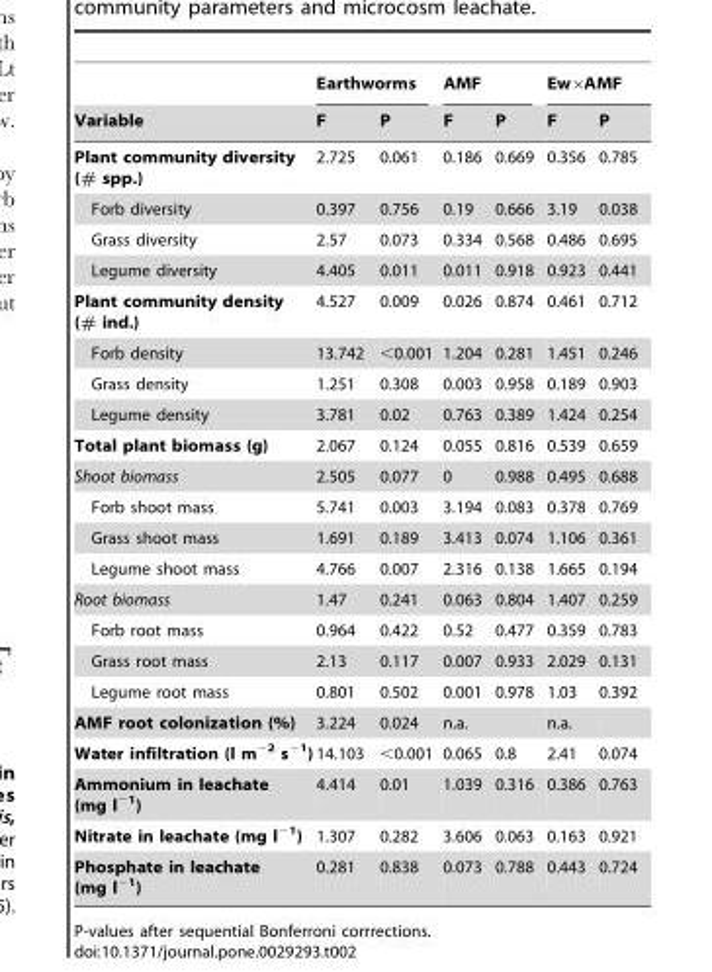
<table><thead><tr><td rowspan="2">Variable</td><td colspan="2">Earthworms</td><td colspan="2">AMF</td><td colspan="2">Ew×AMF</td></tr><tr><td>F</td><td>P</td><td>F</td><td>P</td><td>F</td><td>P</td></tr></thead><tbody><tr><td>Plant community diversity (# spp.)</td><td>2.725</td><td>0.061</td><td>0.186</td><td>0.669</td><td>0.356</td><td>0.785</td></tr><tr><td>Forb diversity</td><td>0.397</td><td>0.756</td><td>0.19</td><td>0.666</td><td>3.19</td><td>0.038</td></tr><tr><td>Grass diversity</td><td>2.57</td><td>0.073</td><td>0.334</td><td>0.568</td><td>0.486</td><td>0.695</td></tr><tr><td>Legume diversity</td><td>4.405</td><td>0.011</td><td>0.011</td><td>0.918</td><td>0.923</td><td>0.441</td></tr><tr><td>Plant community density (# ind.)</td><td>4.527</td><td>0.009</td><td>0.026</td><td>0.874</td><td>0.461</td><td>0.712</td></tr><tr><td>Forb density</td><td>13.742</td><td>&lt;0.001</td><td>1.204</td><td>0.281</td><td>1.451</td><td>0.246</td></tr><tr><td>Grass density</td><td>1.251</td><td>0.308</td><td>0.003</td><td>0.958</td><td>0.189</td><td>0.903</td></tr><tr><td>Legume density</td><td>3.781</td><td>0.02</td><td>0.763</td><td>0.389</td><td>1.424</td><td>0.254</td></tr><tr><td>Total plant biomass (g)</td><td>2.067</td><td>0.124</td><td>0.055</td><td>0.816</td><td>0.539</td><td>0.659</td></tr><tr><td>Shoot biomass</td><td>2.505</td><td>0.077</td><td>0</td><td>0.988</td><td>0.495</td><td>0.688</td></tr><tr><td>Forb shoot mass</td><td>5.741</td><td>0.003</td><td>3.194</td><td>0.083</td><td>0.378</td><td>0.769</td></tr><tr><td>Grass shoot mass</td><td>1.691</td><td>0.189</td><td>3.413</td><td>0.074</td><td>1.106</td><td>0.361</td></tr><tr><td>Legume shoot mass</td><td>4.766</td><td>0.007</td><td>2.316</td><td>0.138</td><td>1.665</td><td>0.194</td></tr><tr><td>Root biomass</td><td>1.47</td><td>0.241</td><td>0.063</td><td>0.804</td><td>1.407</td><td>0.259</td></tr><tr><td>Forb root mass</td><td>0.964</td><td>0.422</td><td>0.52</td><td>0.477</td><td>0.359</td><td>0.783</td></tr><tr><td>Grass root mass</td><td>2.13</td><td>0.117</td><td>0.007</td><td>0.933</td><td>2.029</td><td>0.131</td></tr><tr><td>Legume root mass</td><td>0.801</td><td>0.502</td><td>0.001</td><td>0.978</td><td>1.03</td><td>0.392</td></tr><tr><td>AMF root colonization (%)</td><td>3.224</td><td>0.024</td><td>n.a.</td><td></td><td>n.a.</td><td></td></tr><tr><td>Water infiltration (l m<sup>−2</sup> s<sup>−1</sup>)</td><td>14.103</td><td>&lt;0.001</td><td>0.065</td><td>0.8</td><td>2.41</td><td>0.074</td></tr><tr><td>Ammonium in leachate (mg l<sup>−1</sup>)</td><td>4.414</td><td>0.01</td><td>1.039</td><td>0.316</td><td>0.386</td><td>0.763</td></tr><tr><td>Nitrate in leachate (mg l<sup>−1</sup>)</td><td>1.307</td><td>0.282</td><td>3.606</td><td>0.063</td><td>0.163</td><td>0.921</td></tr><tr><td>Phosphate in leachate (mg l<sup>−1</sup>)</td><td>0.281</td><td>0.838</td><td>0.073</td><td>0.788</td><td>0.443</td><td>0.724</td></tr></tbody></table>